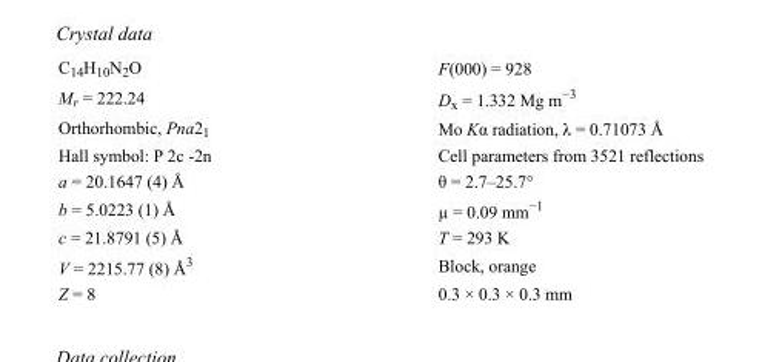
<table><tbody><tr><td>C<sub>14</sub>H<sub>10</sub>N<sub>2</sub>O</td><td>F(000) = 928</td></tr><tr><td>M<sub>r</sub> = 222.24</td><td>D<sub>x</sub> = 1.332 Mg m<sup>−3</sup></td></tr><tr><td>Orthorhombic, Pna2<sub>1</sub></td><td>Mo Kα radiation, λ = 0.71073 Å</td></tr><tr><td>Hall symbol: P 2c -2n</td><td>Cell parameters from 3521 reflections</td></tr><tr><td>a = 20.1647 (4) Å</td><td>θ = 2.7–25.7°</td></tr><tr><td>b = 5.0223 (1) Å</td><td>µ = 0.09 mm<sup>−1</sup></td></tr><tr><td>c = 21.8791 (5) Å</td><td>T = 293 K</td></tr><tr><td>V = 2215.77 (8) Å<sup>3</sup></td><td>Block, orange</td></tr><tr><td>Z = 8</td><td>0.3 × 0.3 × 0.3 mm</td></tr></tbody></table>